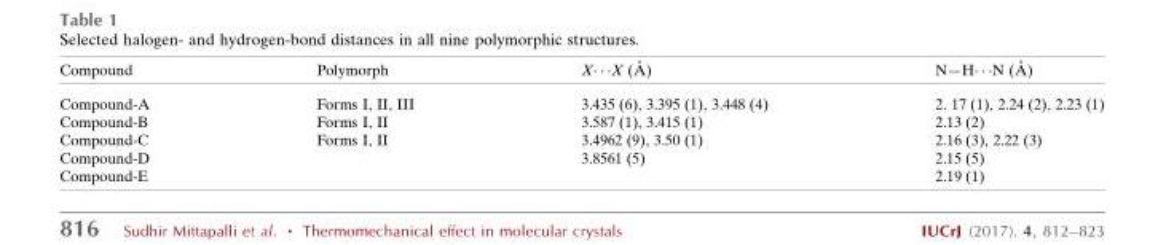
<table><thead><tr><td>Compound</td><td>Polymorph</td><td>X� � �X (A˚ )</td><td>N—H� � �N (A˚ )</td></tr></thead><tbody><tr><td>Compound-A</td><td>Forms I, II, III</td><td>3.435 (6), 3.395 (1), 3.448 (4)</td><td>2. 17 (1), 2.24 (2), 2.23 (1)</td></tr><tr><td>Compound-B</td><td>Forms I, II</td><td>3.587 (1), 3.415 (1)</td><td>2.13 (2)</td></tr><tr><td>Compound-C</td><td>Forms I, II</td><td>3.4962 (9), 3.50 (1)</td><td>2.16 (3), 2.22 (3)</td></tr><tr><td>Compound-D</td><td></td><td>3.8561 (5)</td><td>2.15 (5)</td></tr><tr><td>Compound-E</td><td></td><td></td><td>2.19 (1)</td></tr></tbody></table>